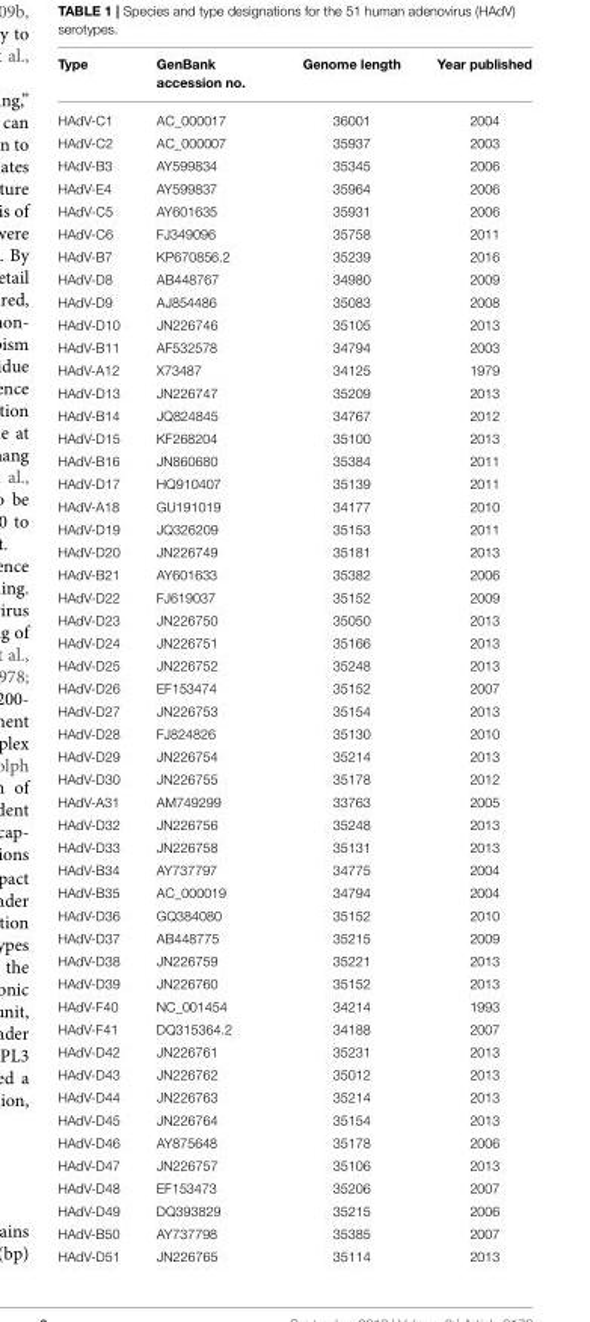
<table><thead><tr><td>Type</td><td>GenBank accession no.</td><td>Genome length</td><td>Year published</td></tr></thead><tbody><tr><td>HAdV-C1</td><td>AC_000017</td><td>36001</td><td>2004</td></tr><tr><td>HAdV-C2</td><td>AC_000007</td><td>35937</td><td>2003</td></tr><tr><td>HAdV-B3</td><td>AY599834</td><td>35345</td><td>2006</td></tr><tr><td>HAdV-E4</td><td>AY599837</td><td>35964</td><td>2006</td></tr><tr><td>HAdV-C5</td><td>AY601635</td><td>35931</td><td>2006</td></tr><tr><td>HAdV-C6</td><td>FJ349096</td><td>35758</td><td>2011</td></tr><tr><td>HAdV-B7</td><td>KP670856.2</td><td>35239</td><td>2016</td></tr><tr><td>HAdV-D8</td><td>AB448767</td><td>34980</td><td>2009</td></tr><tr><td>HAdV-D9</td><td>AJ854486</td><td>35083</td><td>2008</td></tr><tr><td>HAdV-D10</td><td>JN226746</td><td>35105</td><td>2013</td></tr><tr><td>HAdV-B11</td><td>AF532578</td><td>34794</td><td>2003</td></tr><tr><td>HAdV-A12</td><td>X73487</td><td>34125</td><td>1979</td></tr><tr><td>HAdV-D13</td><td>JN226747</td><td>35209</td><td>2013</td></tr><tr><td>HAdV-B14</td><td>JQ824845</td><td>34767</td><td>2012</td></tr><tr><td>HAdV-D15</td><td>KF268204</td><td>35100</td><td>2013</td></tr><tr><td>HAdV-B16</td><td>JN860680</td><td>35384</td><td>2011</td></tr><tr><td>HAdV-D17</td><td>HQ910407</td><td>35139</td><td>2011</td></tr><tr><td>HAdV-A18</td><td>GU191019</td><td>34177</td><td>2010</td></tr><tr><td>HAdV-D19</td><td>JQ326209</td><td>35153</td><td>2011</td></tr><tr><td>HAdV-D20</td><td>JN226749</td><td>35181</td><td>2013</td></tr><tr><td>HAdV-B21</td><td>AY601633</td><td>35382</td><td>2006</td></tr><tr><td>HAdV-D22</td><td>FJ619037</td><td>35152</td><td>2009</td></tr><tr><td>HAdV-D23</td><td>JN226750</td><td>35050</td><td>2013</td></tr><tr><td>HAdV-D24</td><td>JN226751</td><td>35166</td><td>2013</td></tr><tr><td>HAdV-D25</td><td>JN226752</td><td>35248</td><td>2013</td></tr><tr><td>HAdV-D26</td><td>EF153474</td><td>35152</td><td>2007</td></tr><tr><td>HAdV-D27</td><td>JN226753</td><td>35154</td><td>2013</td></tr><tr><td>HAdV-D28</td><td>FJ824826</td><td>35130</td><td>2010</td></tr><tr><td>HAdV-D29</td><td>JN226754</td><td>35214</td><td>2013</td></tr><tr><td>HAdV-D30</td><td>JN226755</td><td>35178</td><td>2012</td></tr><tr><td>HAdV-A31</td><td>AM749299</td><td>33763</td><td>2005</td></tr><tr><td>HAdV-D32</td><td>JN226756</td><td>35248</td><td>2013</td></tr><tr><td>HAdV-D33</td><td>JN226758</td><td>35131</td><td>2013</td></tr><tr><td>HAdV-B34</td><td>AY737797</td><td>34775</td><td>2004</td></tr><tr><td>HAdV-B35</td><td>AC_000019</td><td>34794</td><td>2004</td></tr><tr><td>HAdV-D36</td><td>GQ384080</td><td>35152</td><td>2010</td></tr><tr><td>HAdV-D37</td><td>AB448775</td><td>35215</td><td>2009</td></tr><tr><td>HAdV-D38</td><td>JN226759</td><td>35221</td><td>2013</td></tr><tr><td>HAdV-D39</td><td>JN226760</td><td>35152</td><td>2013</td></tr><tr><td>HAdV-F40</td><td>NC_001454</td><td>34214</td><td>1993</td></tr><tr><td>HAdV-F41</td><td>DQ315364.2</td><td>34188</td><td>2007</td></tr><tr><td>HAdV-D42</td><td>JN226761</td><td>35231</td><td>2013</td></tr><tr><td>HAdV-D43</td><td>JN226762</td><td>35012</td><td>2013</td></tr><tr><td>HAdV-D44</td><td>JN226763</td><td>35214</td><td>2013</td></tr><tr><td>HAdV-D45</td><td>JN226764</td><td>35154</td><td>2013</td></tr><tr><td>HAdV-D46</td><td>AY875648</td><td>35178</td><td>2006</td></tr><tr><td>HAdV-D47</td><td>JN226757</td><td>35106</td><td>2013</td></tr><tr><td>HAdV-D48</td><td>EF153473</td><td>35206</td><td>2007</td></tr><tr><td>HAdV-D49</td><td>DQ393829</td><td>35215</td><td>2006</td></tr><tr><td>HAdV-B50</td><td>AY737798</td><td>35385</td><td>2007</td></tr><tr><td>HAdV-D51</td><td>JN226765</td><td>35114</td><td>2013</td></tr></tbody></table>